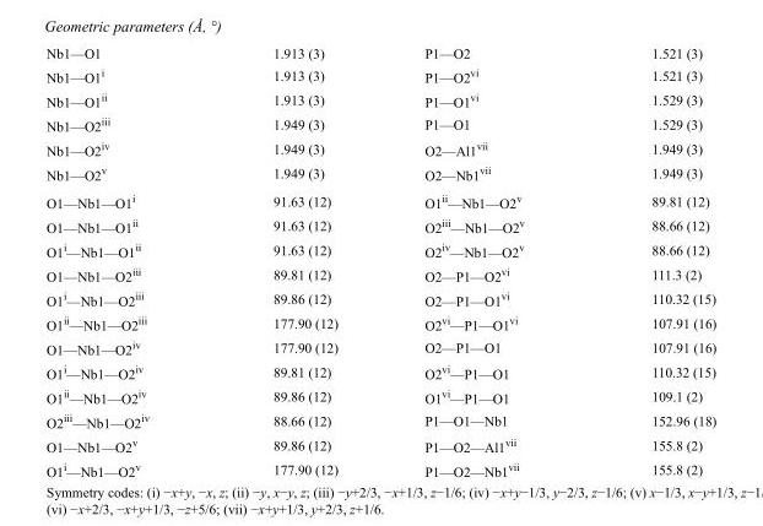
<table><tbody><tr><td>Nb1—O1</td><td>1.913 (3)</td><td>P1—O2</td><td>1.521 (3)</td></tr><tr><td>Nb1—O1<sup>i</sup></td><td>1.913 (3)</td><td>P1—O2<sup>vi</sup></td><td>1.521 (3)</td></tr><tr><td>Nb1—O1<sup>ii</sup></td><td>1.913 (3)</td><td>P1—O1<sup>vi</sup></td><td>1.529 (3)</td></tr><tr><td>Nb1—O2<sup>iii</sup></td><td>1.949 (3)</td><td>P1—O1</td><td>1.529 (3)</td></tr><tr><td>Nb1—O2<sup>iv</sup></td><td>1.949 (3)</td><td>O2—Al1<sup>vii</sup></td><td>1.949 (3)</td></tr><tr><td>Nb1—O2<sup>v</sup></td><td>1.949 (3)</td><td>O2—Nb1<sup>vii</sup></td><td>1.949 (3)</td></tr><tr><td>O1—Nb1—O1<sup>i</sup></td><td>91.63 (12)</td><td>O1<sup>ii</sup>—Nb1—O2<sup>v</sup></td><td>89.81 (12)</td></tr><tr><td>O1—Nb1—O1<sup>ii</sup></td><td>91.63 (12)</td><td>O2<sup>iii</sup>—Nb1—O2<sup>v</sup></td><td>88.66 (12)</td></tr><tr><td>O1<sup>i</sup>—Nb1—O1<sup>ii</sup></td><td>91.63 (12)</td><td>O2<sup>iv</sup>—Nb1—O2<sup>v</sup></td><td>88.66 (12)</td></tr><tr><td>O1—Nb1—O2<sup>iii</sup></td><td>89.81 (12)</td><td>O2—P1—O2<sup>vi</sup></td><td>111.3 (2)</td></tr><tr><td>O1<sup>i</sup>—Nb1—O2<sup>iii</sup></td><td>89.86 (12)</td><td>O2—P1—O1<sup>vi</sup></td><td>110.32 (15)</td></tr><tr><td>O1<sup>ii</sup>—Nb1—O2<sup>iii</sup></td><td>177.90 (12)</td><td>O2<sup>vi</sup>—P1—O1<sup>vi</sup></td><td>107.91 (16)</td></tr><tr><td>O1—Nb1—O2<sup>iv</sup></td><td>177.90 (12)</td><td>O2—P1—O1</td><td>107.91 (16)</td></tr><tr><td>O1<sup>i</sup>—Nb1—O2<sup>iv</sup></td><td>89.81 (12)</td><td>O2<sup>vi</sup>—P1—O1</td><td>110.32 (15)</td></tr><tr><td>O1<sup>ii</sup>—Nb1—O2<sup>iv</sup></td><td>89.86 (12)</td><td>O1<sup>vi</sup>—P1—O1</td><td>109.1 (2)</td></tr><tr><td>O2<sup>iii</sup>—Nb1—O2<sup>iv</sup></td><td>88.66 (12)</td><td>P1—O1—Nb1</td><td>152.96 (18)</td></tr><tr><td>O1—Nb1—O2<sup>v</sup></td><td>89.86 (12)</td><td>P1—O2—Al1<sup>vii</sup></td><td>155.8 (2)</td></tr><tr><td>O1<sup>i</sup>—Nb1—O2<sup>v</sup></td><td>177.90 (12)</td><td>P1—O2—Nb1<sup>vii</sup></td><td>155.8 (2)</td></tr></tbody></table>